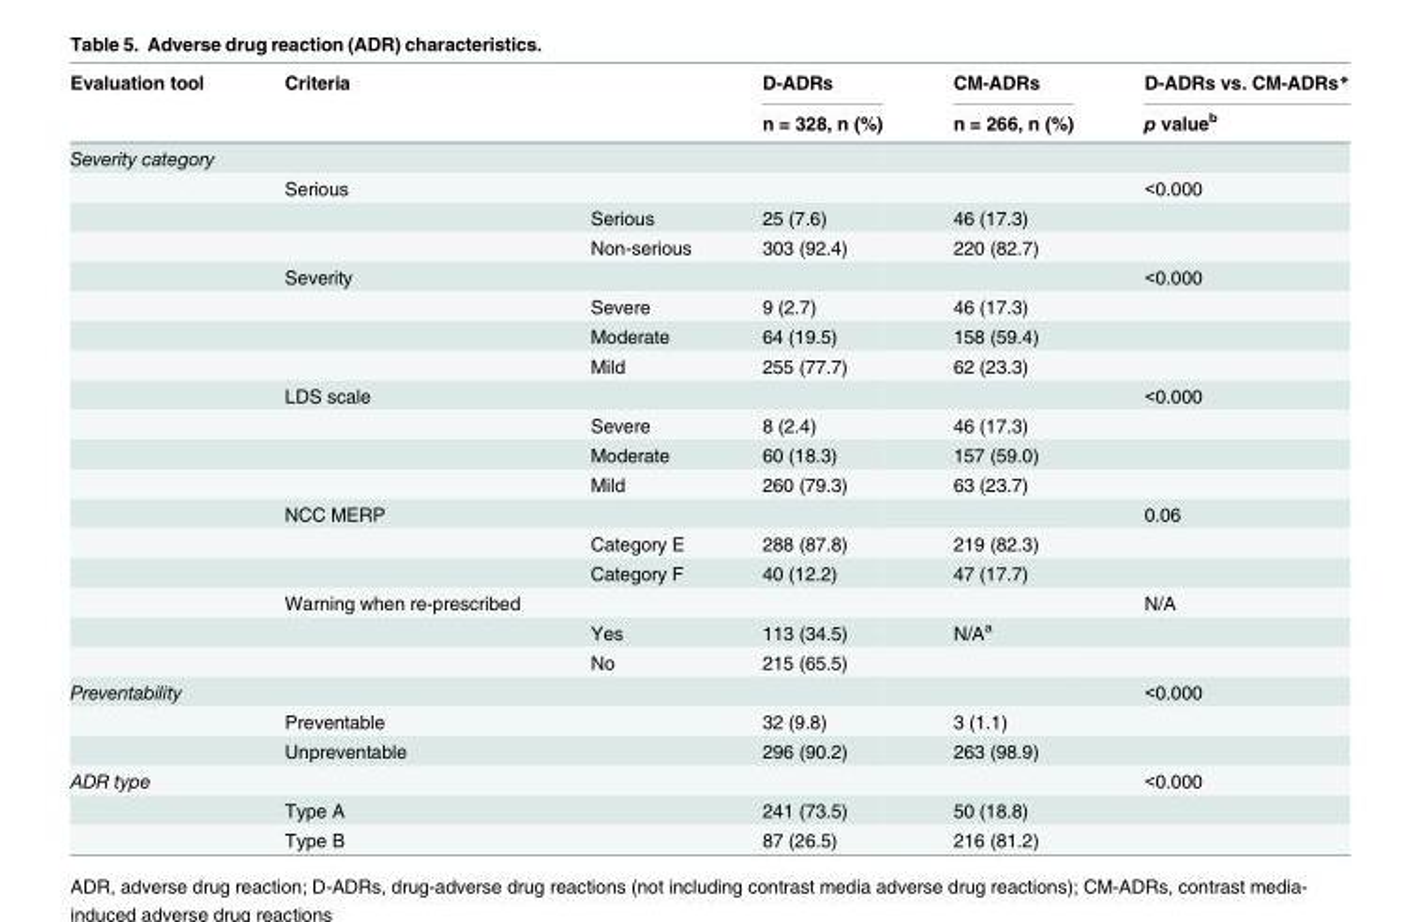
<table><thead><tr><td rowspan="3">Evaluation tool Severity category</td><td rowspan="2" colspan="2">Criteria</td><td rowspan="3">D-ADRs n = 328, n (%)</td><td rowspan="3">CM-ADRs n = 266, n (%)</td><td rowspan="3">D-ADRs vs. CM-ADRs* p value<sup>b</sup></td></tr><tr></tr><tr><td></td><td></td></tr></thead><tbody><tr><td></td><td>Serious</td><td></td><td></td><td></td><td>&lt;0.000</td></tr><tr><td></td><td></td><td>Serious</td><td>25 (7.6)</td><td>46 (17.3)</td><td></td></tr><tr><td></td><td></td><td>Non-serious</td><td>303 (92.4)</td><td>220 (82.7)</td><td></td></tr><tr><td></td><td>Severity</td><td></td><td></td><td></td><td>&lt;0.000</td></tr><tr><td></td><td></td><td>Severe</td><td>9 (2.7)</td><td>46 (17.3)</td><td></td></tr><tr><td></td><td></td><td>Moderate</td><td>64 (19.5)</td><td>158 (59.4)</td><td></td></tr><tr><td></td><td></td><td>Mild</td><td>255 (77.7)</td><td>62 (23.3)</td><td></td></tr><tr><td></td><td>LDS scale</td><td></td><td></td><td></td><td>&lt;0.000</td></tr><tr><td></td><td></td><td>Severe</td><td>8 (2.4)</td><td>46 (17.3)</td><td></td></tr><tr><td></td><td></td><td>Moderate</td><td>60 (18.3)</td><td>157 (59.0)</td><td></td></tr><tr><td></td><td></td><td>Mild</td><td>260 (79.3)</td><td>63 (23.7)</td><td></td></tr><tr><td></td><td>NCC MERP</td><td></td><td></td><td></td><td>0.06</td></tr><tr><td></td><td></td><td>Category E</td><td>288 (87.8)</td><td>219 (82.3)</td><td></td></tr><tr><td></td><td></td><td>Category F</td><td>40 (12.2)</td><td>47 (17.7)</td><td></td></tr><tr><td></td><td>Warning when re-prescribed</td><td></td><td></td><td></td><td>N/A</td></tr><tr><td></td><td></td><td>Yes</td><td>113 (34.5)</td><td>N/A<sup>a</sup></td><td></td></tr><tr><td></td><td></td><td>No</td><td>215 (65.5)</td><td></td><td></td></tr><tr><td rowspan="3">Preventability</td><td></td><td></td><td></td><td></td><td>&lt;0.000</td></tr><tr><td>Preventable</td><td></td><td>32 (9.8)</td><td>3 (1.1)</td><td></td></tr><tr><td>Unpreventable</td><td></td><td>296 (90.2)</td><td>263 (98.9)</td><td></td></tr><tr><td rowspan="3">ADR type</td><td></td><td></td><td></td><td></td><td>&lt;0.000</td></tr><tr><td>Type A</td><td></td><td>241 (73.5)</td><td>50 (18.8)</td><td></td></tr><tr><td>Type B</td><td></td><td>87 (26.5)</td><td>216 (81.2)</td><td></td></tr></tbody></table>